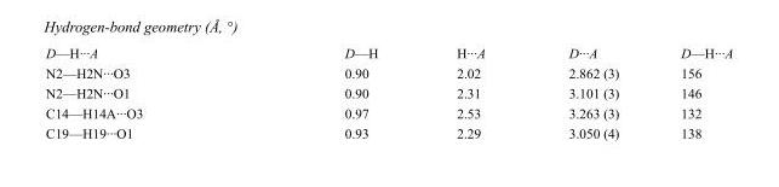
<table><tbody><tr><td>D—H···A</td><td>D—H</td><td>H···A</td><td>D···A</td><td>D—H···A</td></tr><tr><td>N2—H2N···O3</td><td>0.90</td><td>2.02</td><td>2.862 (3)</td><td>156</td></tr><tr><td>N2—H2N···O1</td><td>0.90</td><td>2.31</td><td>3.101 (3)</td><td>146</td></tr><tr><td>C14—H14A···O3</td><td>0.97</td><td>2.53</td><td>3.263 (3)</td><td>132</td></tr><tr><td>C19—H19···O1</td><td>0.93</td><td>2.29</td><td>3.050 (4)</td><td>138</td></tr></tbody></table>